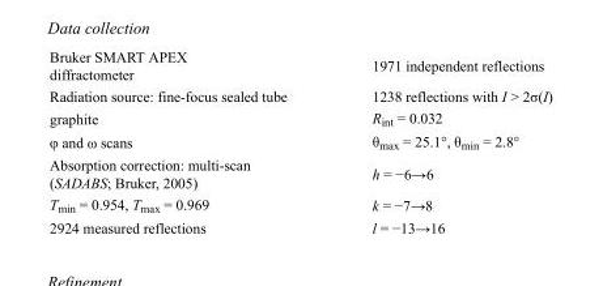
<table><tbody><tr><td>Bruker SMART APEX diffractometer</td><td>1971 independent reflections</td></tr><tr><td>Radiation source: fine-focus sealed tube</td><td>1238 reflections with I &gt; 2σ(I)</td></tr><tr><td>graphite</td><td>R<sub>int</sub> = 0.032</td></tr><tr><td>φ and ω scans</td><td>θ<sub>max</sub> = 25.1°, θ<sub>min</sub> = 2.8°</td></tr><tr><td>Absorption correction: multi-scan (SADABS; Bruker, 2005)</td><td>h = −6→6</td></tr><tr><td>T<sub>min</sub> = 0.954, T<sub>max</sub> = 0.969</td><td>k = −7→8</td></tr><tr><td>2924 measured reflections</td><td>l = −13→16</td></tr></tbody></table>